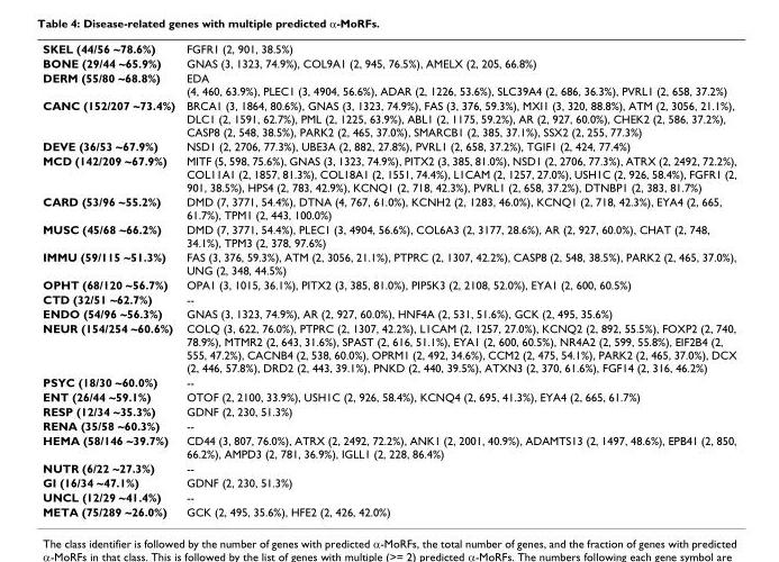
<table><tbody><tr><td>SKEL (44/56 ~78.6%)</td><td>FGFR1 (2, 901, 38.5%)</td></tr><tr><td>BONE (29/44 ~65.9%)</td><td>GNAS (3, 1323, 74.9%), COL9A1 (2, 945, 76.5%), AMELX (2, 205, 66.8%)</td></tr><tr><td>DERM (55/80 ~68.8%)</td><td>EDA (4, 460, 63.9%), PLEC1 (3, 4904, 56.6%), ADAR (2, 1226, 53.6%), SLC39A4 (2, 686, 36.3%), PVRL1 (2, 658, 37.2%)</td></tr><tr><td>CANC (152/207 ~73.4%)</td><td>BRCA1 (3, 1864, 80.6%), GNAS (3, 1323, 74.9%), FAS (3, 376, 59.3%), MXI1 (3, 320, 88.8%), ATM (2, 3056, 21.1%), DLC1 (2, 1591, 62.7%), PML (2, 1225, 63.9%), ABL1 (2, 1175, 59.2%), AR (2, 927, 60.0%), CHEK2 (2, 586, 37.2%), CASP8 (2, 548, 38.5%), PARK2 (2, 465, 37.0%), SMARCB1 (2, 385, 37.1%), SSX2 (2, 255, 77.3%)</td></tr><tr><td>DEVE (36/53 ~67.9%)</td><td>NSD1 (2, 2706, 77.3%), UBE3A (2, 882, 27.8%), PVRL1 (2, 658, 37.2%), TGIF1 (2, 424, 77.4%)</td></tr><tr><td>MCD (142/209 ~67.9%)</td><td>MITF (5, 598, 75.6%), GNAS (3, 1323, 74.9%), PITX2 (3, 385, 81.0%), NSD1 (2, 2706, 77.3%), ATRX (2, 2492, 72.2%), COL11A1 (2, 1857, 81.3%), COL18A1 (2, 1551, 74.4%), L1CAM (2, 1257, 27.0%), USH1C (2, 926, 58.4%), FGFR1 (2, 901, 38.5%), HPS4 (2, 783, 42.9%), KCNQ1 (2, 718, 42.3%), PVRL1 (2, 658, 37.2%), DTNBP1 (2, 383, 81.7%)</td></tr><tr><td>CARD (53/96 ~55.2%)</td><td>DMD (7, 3771, 54.4%), DTNA (4, 767, 61.0%), KCNH2 (2, 1283, 46.0%), KCNQ1 (2, 718, 42.3%), EYA4 (2, 665, 61.7%), TPM1 (2, 443, 100.0%)</td></tr><tr><td>MUSC (45/68 ~66.2%)</td><td>DMD (7, 3771, 54.4%), PLEC1 (3, 4904, 56.6%), COL6A3 (2, 3177, 28.6%), AR (2, 927, 60.0%), CHAT (2, 748, 34.1%), TPM3 (2, 378, 97.6%)</td></tr><tr><td>IMMU (59/115 ~51.3%)</td><td>FAS (3, 376, 59.3%), ATM (2, 3056, 21.1%), PTPRC (2, 1307, 42.2%), CASP8 (2, 548, 38.5%), PARK2 (2, 465, 37.0%), UNG (2, 348, 44.5%)</td></tr><tr><td>OPHT (68/120 ~56.7%)</td><td>OPA1 (3, 1015, 36.1%), PITX2 (3, 385, 81.0%), PIP5K3 (2, 2108, 52.0%), EYA1 (2, 600, 60.5%)</td></tr><tr><td>CTD (32/51 ~62.7%)</td><td>--</td></tr><tr><td>ENDO (54/96 ~56.3%)</td><td>GNAS (3, 1323, 74.9%), AR (2, 927, 60.0%), HNF4A (2, 531, 51.6%), GCK (2, 495, 35.6%)</td></tr><tr><td>NEUR (154/254 ~60.6%)</td><td>COLQ (3, 622, 76.0%), PTPRC (2, 1307, 42.2%), L1CAM (2, 1257, 27.0%), KCNQ2 (2, 892, 55.5%), FOXP2 (2, 740, 78.9%), MTMR2 (2, 643, 31.6%), SPAST (2, 616, 51.1%), EYA1 (2, 600, 60.5%), NR4A2 (2, 599, 55.8%), EIF2B4 (2, 555, 47.2%), CACNB4 (2, 538, 60.0%), OPRM1 (2, 492, 34.6%), CCM2 (2, 475, 54.1%), PARK2 (2, 465, 37.0%), DCX (2, 446, 57.8%), DRD2 (2, 443, 39.1%), PNKD (2, 440, 39.5%), ATXN3 (2, 370, 61.6%), FGF14 (2, 316, 46.2%)</td></tr><tr><td>PSYC (18/30 ~60.0%)</td><td>--</td></tr><tr><td>ENT (26/44 ~59.1%)</td><td>OTOF (2, 2100, 33.9%), USH1C (2, 926, 58.4%), KCNQ4 (2, 695, 41.3%), EYA4 (2, 665, 61.7%)</td></tr><tr><td>RESP (12/34 ~35.3%)</td><td>GDNF (2, 230, 51.3%)</td></tr><tr><td>RENA (35/58 ~60.3%)</td><td>--</td></tr><tr><td>HEMA (58/146 ~39.7%)</td><td>CD44 (3, 807, 76.0%), ATRX (2, 2492, 72.2%), ANK1 (2, 2001, 40.9%), ADAMTS13 (2, 1497, 48.6%), EPB41 (2, 850, 66.2%), AMPD3 (2, 781, 36.9%), IGLL1 (2, 228, 86.4%)</td></tr><tr><td>NUTR (6/22 ~27.3%)</td><td>--</td></tr><tr><td>GI (16/34 ~47.1%)</td><td>GDNF (2, 230, 51.3%)</td></tr><tr><td>UNCL (12/29 ~41.4%)</td><td>--</td></tr><tr><td>META (75/289 ~26.0%)</td><td>GCK (2, 495, 35.6%), HFE2 (2, 426, 42.0%)</td></tr></tbody></table>